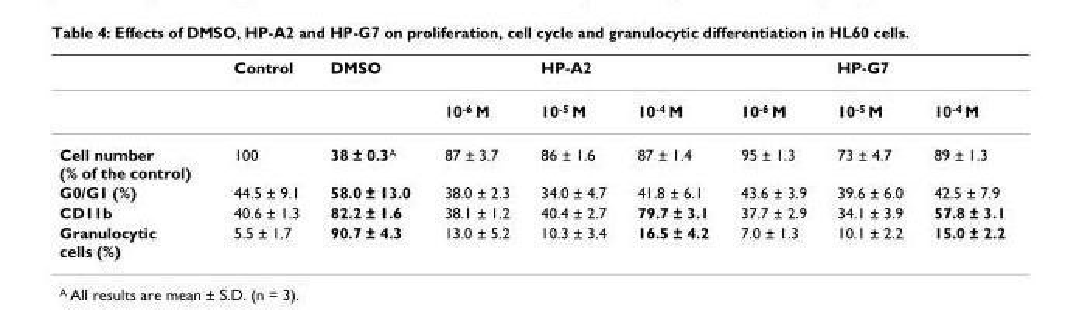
<table><thead><tr><td></td><td>Control</td><td>DMSO</td><td></td><td>HP-A2</td><td></td><td></td><td>HP-G7</td><td></td></tr></thead><tbody><tr><td></td><td></td><td></td><td>10<sup>-6</sup> M</td><td>10<sup>-5</sup> M</td><td>10<sup>-4</sup> M</td><td>10<sup>-6</sup> M</td><td>10<sup>-5</sup> M</td><td>10<sup>-4</sup> M</td></tr><tr><td>Cell number (% of the control)</td><td>100</td><td>38 ± 0.3<sup>A</sup></td><td>87 ± 3.7</td><td>86 ± 1.6</td><td>87 ± 1.4</td><td>95 ± 1.3</td><td>73 ± 4.7</td><td>89 ± 1.3</td></tr><tr><td>G0/G1 (%)</td><td>44.5 ± 9.1</td><td>58.0 ± 13.0</td><td>38.0 ± 2.3</td><td>34.0 ± 4.7</td><td>41.8 ± 6.1</td><td>43.6 ± 3.9</td><td>39.6 ± 6.0</td><td>42.5 ± 7.9</td></tr><tr><td>CD11b</td><td>40.6 ± 1.3</td><td>82.2 ± 1.6</td><td>38.1 ± 1.2</td><td>40.4 ± 2.7</td><td>79.7 ± 3.1</td><td>37.7 ± 2.9</td><td>34.1 ± 3.9</td><td>57.8 ± 3.1</td></tr><tr><td>Granulocytic cells (%)</td><td>5.5 ± 1.7</td><td>90.7 ± 4.3</td><td>13.0 ± 5.2</td><td>10.3 ± 3.4</td><td>16.5 ± 4.2</td><td>7.0 ± 1.3</td><td>10.1 ± 2.2</td><td>15.0 ± 2.2</td></tr></tbody></table>